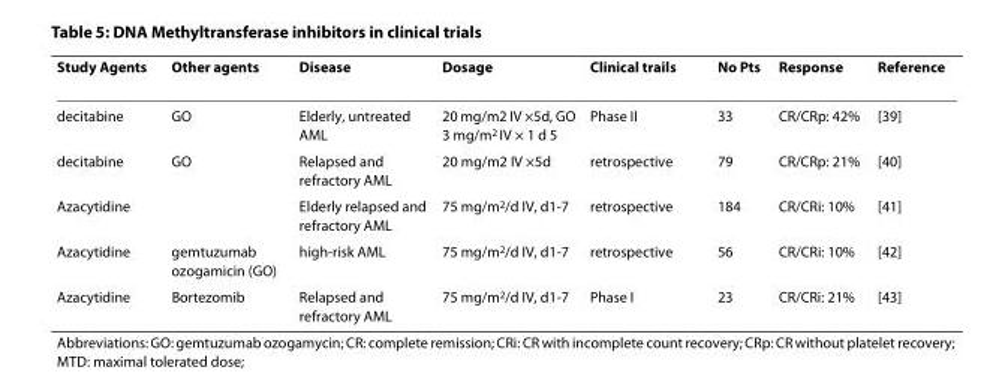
<table><thead><tr><td>Study Agents</td><td>Other agents</td><td>Disease</td><td>Dosage</td><td>Clinical trails</td><td>No Pts</td><td>Response</td><td>Reference</td></tr></thead><tbody><tr><td>decitabine</td><td>GO</td><td>Elderly, untreated AML</td><td>20 mg/m2 IV ×5d, GO 3 mg/m<sup>2</sup> IV × 1 d 5</td><td>Phase II</td><td>33</td><td>CR/CRp: 42%</td><td>[39]</td></tr><tr><td>decitabine</td><td>GO</td><td>Relapsed and refractory AML</td><td>20 mg/m2 IV ×5d</td><td>retrospective</td><td>79</td><td>CR/CRp: 21%</td><td>[40]</td></tr><tr><td>Azacytidine</td><td></td><td>Elderly relapsed and refractory AML</td><td>75 mg/m<sup>2</sup>/d IV, d1-7</td><td>retrospective</td><td>184</td><td>CR/CRi: 10%</td><td>[41]</td></tr><tr><td>Azacytidine</td><td>gemtuzumab ozogamicin (GO)</td><td>high-risk AML</td><td>75 mg/m<sup>2</sup>/d IV, d1-7</td><td>retrospective</td><td>56</td><td>CR/CRi: 10%</td><td>[42]</td></tr><tr><td>Azacytidine</td><td>Bortezomib</td><td>Relapsed and refractory AML</td><td>75 mg/m<sup>2</sup>/d IV, d1-7</td><td>Phase I</td><td>23</td><td>CR/CRi: 21%</td><td>[43]</td></tr></tbody></table>